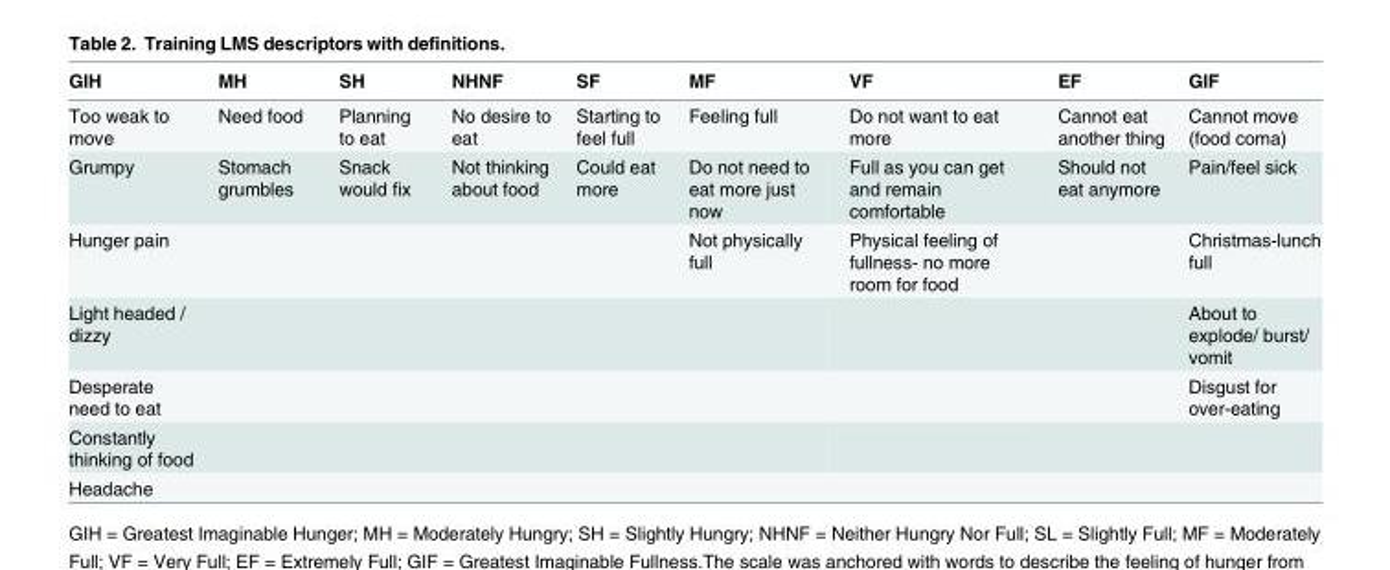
<table><thead><tr><td>GIH</td><td>MH</td><td>SH</td><td>NHNF</td><td>SF</td><td>MF</td><td>VF</td><td>EF</td><td>GIF</td></tr></thead><tbody><tr><td>Too weak to move</td><td>Need food</td><td>Planning to eat</td><td>No desire to eat</td><td>Starting to feel full</td><td>Feeling full</td><td>Do not want to eat more</td><td>Cannot eat another thing</td><td>Cannot move (food coma)</td></tr><tr><td>Grumpy</td><td>Stomach grumbles</td><td>Snack would fix</td><td>Not thinking about food</td><td>Could eat more</td><td>Do not need to eat more just now</td><td>Full as you can get and remain comfortable</td><td>Should not eat anymore</td><td>Pain/feel sick</td></tr><tr><td>Hunger pain</td><td></td><td></td><td></td><td></td><td>Not physically full</td><td>Physical feeling of fullness- no more room for food</td><td></td><td>Christmas-lunch full</td></tr><tr><td>Light headed / dizzy</td><td></td><td></td><td></td><td></td><td></td><td></td><td></td><td>About to explode/ burst/ vomit</td></tr><tr><td>Desperate need to eat</td><td></td><td></td><td></td><td></td><td></td><td></td><td></td><td>Disgust for over-eating</td></tr><tr><td colspan="9">Constantly thinking of food</td></tr><tr><td>Headache</td><td></td><td></td><td></td><td></td><td></td><td></td><td></td><td></td></tr></tbody></table>